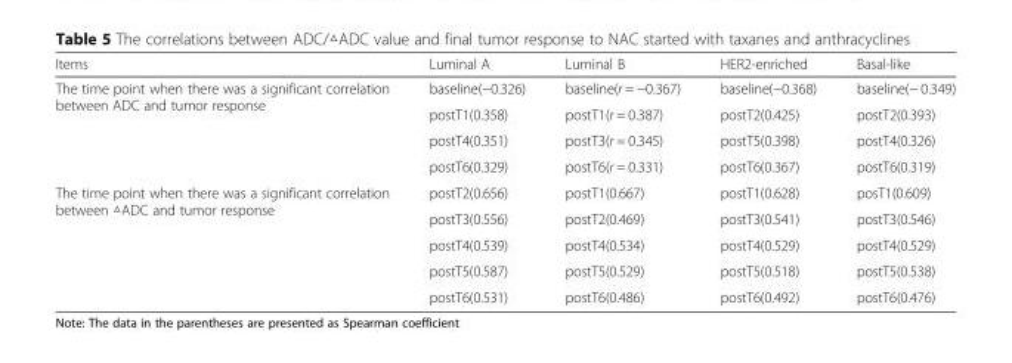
<table><thead><tr><td>Items</td><td>Luminal A</td><td>Luminal B</td><td>HER2-enriched</td><td>Basal-like</td></tr></thead><tbody><tr><td rowspan="4">The time point when there was a significant correlation between ADC and tumor response</td><td>baseline(−0.326)</td><td>baseline(r = −0.367)</td><td>baseline(−0.368)</td><td>baseline(− 0.349)</td></tr><tr><td>postT1(0.358)</td><td>postT1(r = 0.387)</td><td>postT2(0.425)</td><td>postT2(0.393)</td></tr><tr><td>postT4(0.351)</td><td>postT3(r = 0.345)</td><td>postT5(0.398)</td><td>postT4(0.326)</td></tr><tr><td>postT6(0.329)</td><td>postT6(r = 0.331)</td><td>postT6(0.367)</td><td>postT6(0.319)</td></tr><tr><td rowspan="5">The time point when there was a significant correlation between △ADC and tumor response</td><td>postT2(0.656)</td><td>postT1(0.667)</td><td>postT1(0.628)</td><td>posT1(0.609)</td></tr><tr><td>postT3(0.556)</td><td>postT2(0.469)</td><td>postT3(0.541)</td><td>postT3(0.546)</td></tr><tr><td>postT4(0.539)</td><td>postT4(0.534)</td><td>postT4(0.529)</td><td>postT4(0.529)</td></tr><tr><td>postT5(0.587)</td><td>postT5(0.529)</td><td>postT5(0.518)</td><td>postT5(0.538)</td></tr><tr><td>postT6(0.531)</td><td>postT6(0.486)</td><td>postT6(0.492)</td><td>postT6(0.476)</td></tr></tbody></table>